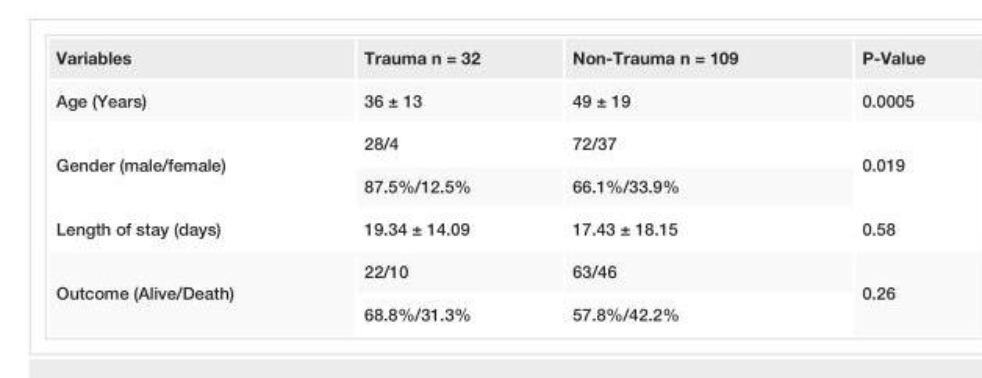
<table><tbody><tr><td>Variables</td><td>Trauma n = 32</td><td>Non-Trauma n = 109</td><td>P-Value</td></tr><tr><td>Age (Years)</td><td>36 ± 13</td><td>49 ± 19</td><td>0.0005</td></tr><tr><td rowspan="2">Gender (male/female)</td><td>28/4</td><td>72/37</td><td rowspan="2">0.019</td></tr><tr><td>87.5%/12.5%</td><td>66.1%/33.9%</td></tr><tr><td>Length of stay (days)</td><td>19.34 ± 14.09</td><td>17.43 ± 18.15</td><td>0.58</td></tr><tr><td rowspan="2">Outcome (Alive/Death)</td><td>22/10</td><td>63/46</td><td rowspan="2">0.26</td></tr><tr><td>68.8%/31.3%</td><td>57.8%/42.2%</td></tr></tbody></table>